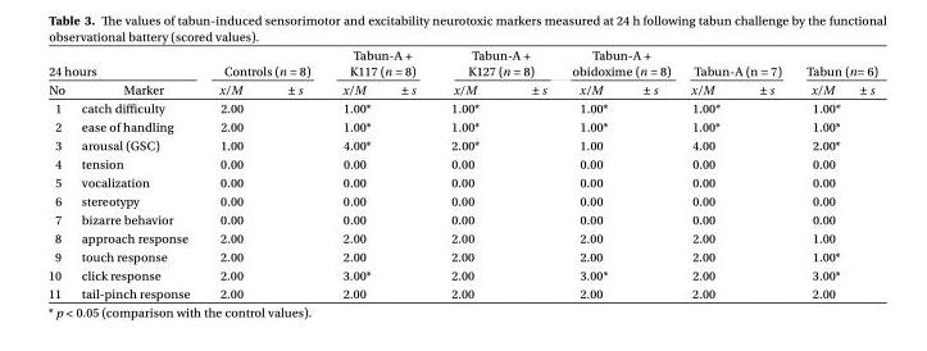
<table><thead><tr><td colspan="2">24 hours</td><td colspan="2">Controls (n = 8)</td><td colspan="2">Tabun-A + K117 (n = 8)</td><td colspan="2">Tabun-A + K127 (n = 8)</td><td colspan="2">Tabun-A + obidoxime (n = 8)</td><td colspan="2">Tabun-A (n = 7)</td><td colspan="2">Tabun (n= 6)</td></tr><tr><td>No</td><td>Marker</td><td>x/M</td><td>± s</td><td>x/M</td><td>± s</td><td>x/M</td><td>± s</td><td>x/M</td><td>± s</td><td>x/M</td><td>± s</td><td>x/M</td><td>± s</td></tr></thead><tbody><tr><td>1</td><td>catch difficulty</td><td>2.00</td><td></td><td>1.00*</td><td></td><td>1.00*</td><td></td><td>1.00*</td><td></td><td>1.00*</td><td></td><td>1.00*</td><td></td></tr><tr><td>2</td><td>ease of handling</td><td>2.00</td><td></td><td>1.00*</td><td></td><td>1.00*</td><td></td><td>1.00*</td><td></td><td>1.00*</td><td></td><td>1.00*</td><td></td></tr><tr><td>3</td><td>arousal (GSC)</td><td>1.00</td><td></td><td>4.00*</td><td></td><td>2.00*</td><td></td><td>1.00</td><td></td><td>4.00</td><td></td><td>2.00*</td><td></td></tr><tr><td>4</td><td>tension</td><td>0.00</td><td></td><td>0.00</td><td></td><td>0.00</td><td></td><td>0.00</td><td></td><td>0.00</td><td></td><td>0.00</td><td></td></tr><tr><td>5</td><td>vocalization</td><td>0.00</td><td></td><td>0.00</td><td></td><td>0.00</td><td></td><td>0.00</td><td></td><td>0.00</td><td></td><td>0.00</td><td></td></tr><tr><td>6</td><td>stereotypy</td><td>0.00</td><td></td><td>0.00</td><td></td><td>0.00</td><td></td><td>0.00</td><td></td><td>0.00</td><td></td><td>0.00</td><td></td></tr><tr><td>7</td><td>bizarre behavior</td><td>0.00</td><td></td><td>0.00</td><td></td><td>0.00</td><td></td><td>0.00</td><td></td><td>0.00</td><td></td><td>0.00</td><td></td></tr><tr><td>8</td><td>approach response</td><td>2.00</td><td></td><td>2.00</td><td></td><td>2.00</td><td></td><td>2.00</td><td></td><td>2.00</td><td></td><td>1.00</td><td></td></tr><tr><td>9</td><td>touch response</td><td>2.00</td><td></td><td>2.00</td><td></td><td>2.00</td><td></td><td>2.00</td><td></td><td>2.00</td><td></td><td>1.00*</td><td></td></tr><tr><td>10</td><td>click response</td><td>2.00</td><td></td><td>3.00*</td><td></td><td>2.00</td><td></td><td>3.00*</td><td></td><td>2.00</td><td></td><td>3.00*</td><td></td></tr><tr><td>11</td><td>tail-pinch response</td><td>2.00</td><td></td><td>2.00</td><td></td><td>2.00</td><td></td><td>2.00</td><td></td><td>2.00</td><td></td><td>2.00</td><td></td></tr></tbody></table>